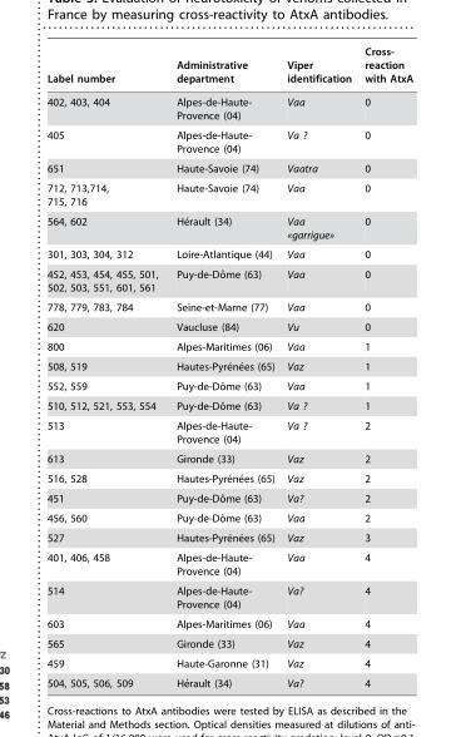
<table><thead><tr><td>Label number</td><td>Administrative department</td><td>Viper identification</td><td>Cross- reaction with AtxA</td></tr></thead><tbody><tr><td>402, 403, 404</td><td>Alpes-de-Haute- Provence (04)</td><td>Vaa</td><td>0</td></tr><tr><td>405</td><td>Alpes-de-Haute- Provence (04)</td><td>Va ?</td><td>0</td></tr><tr><td>651</td><td>Haute-Savoie (74)</td><td>Vaatra</td><td>0</td></tr><tr><td>712, 713,714, 715, 716</td><td>Haute-Savoie (74)</td><td>Vaa</td><td>0</td></tr><tr><td>564, 602</td><td>He´rault (34)</td><td>Vaa «garrigue»</td><td>0</td></tr><tr><td>301, 303, 304, 312</td><td>Loire-Atlantique (44)</td><td>Vaa</td><td>0</td></tr><tr><td>452, 453, 454, 455, 501, 502, 503, 551, 601, 561</td><td>Puy-de-Doˆme (63)</td><td>Vaa</td><td>0</td></tr><tr><td>778, 779, 783, 784</td><td>Seine-et-Marne (77)</td><td>Vaa</td><td>0</td></tr><tr><td>620</td><td>Vaucluse (84)</td><td>Vu</td><td>0</td></tr><tr><td>800</td><td>Alpes-Maritimes (06)</td><td>Vaa</td><td>1</td></tr><tr><td>508, 519</td><td>Hautes-Pyre´ne´es (65)</td><td>Vaz</td><td>1</td></tr><tr><td>552, 559</td><td>Puy-de-Doˆme (63)</td><td>Vaa</td><td>1</td></tr><tr><td>510, 512, 521, 553, 554</td><td>Puy-de-Doˆme (63)</td><td>Va ?</td><td>1</td></tr><tr><td>513</td><td>Alpes-de-Haute- Provence (04)</td><td>Va ?</td><td>2</td></tr><tr><td>613</td><td>Gironde (33)</td><td>Vaz</td><td>2</td></tr><tr><td>516, 528</td><td>Hautes-Pyre´ne´es (65)</td><td>Vaz</td><td>2</td></tr><tr><td>451</td><td>Puy-de-Doˆme (63)</td><td>Va?</td><td>2</td></tr><tr><td>456, 560</td><td>Puy-de-Doˆme (63)</td><td>Vaa</td><td>2</td></tr><tr><td>527</td><td>Hautes-Pyre´ne´es (65)</td><td>Vaz</td><td>3</td></tr><tr><td>401, 406, 458</td><td>Alpes-de-Haute- Provence (04)</td><td>Vaa</td><td>4</td></tr><tr><td>514</td><td>Alpes-de-Haute- Provence (04)</td><td>Va?</td><td>4</td></tr><tr><td>603</td><td>Alpes-Maritimes (06)</td><td>Vaa</td><td>4</td></tr><tr><td>565</td><td>Gironde (33)</td><td>Vaz</td><td>4</td></tr><tr><td>459</td><td>Haute-Garonne (31)</td><td>Vaz</td><td>4</td></tr><tr><td>504, 505, 506, 509</td><td>He´rault (34)</td><td>Va?</td><td>4</td></tr></tbody></table>